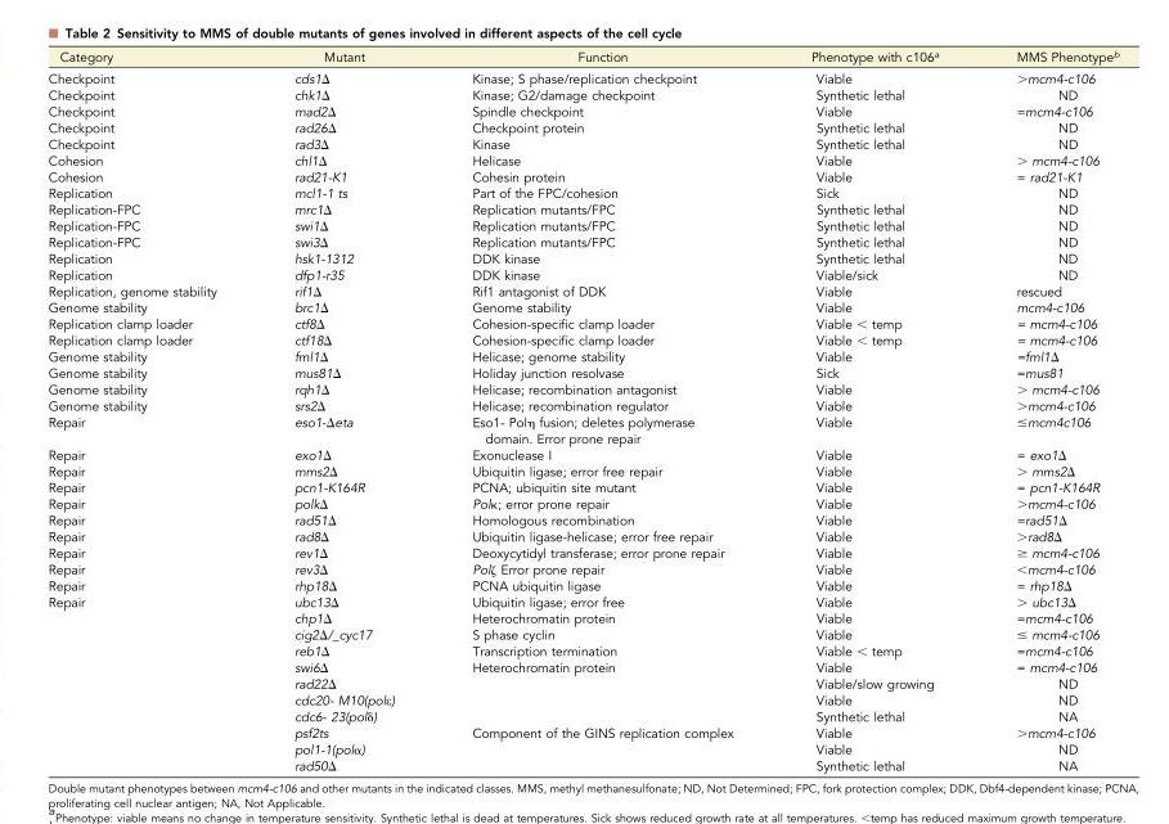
<table><thead><tr><td>Category</td><td>Mutant</td><td>Function</td><td>Phenotype with c106<sup>a</sup></td><td>MMS Phenotype<sup>b</sup></td></tr></thead><tbody><tr><td>Checkpoint</td><td>cds1Δ</td><td>Kinase; S phase/replication checkpoint</td><td>Viable</td><td>&gt;mcm4-c106</td></tr><tr><td>Checkpoint</td><td>chk1Δ</td><td>Kinase; G2/damage checkpoint</td><td>Synthetic lethal</td><td>ND</td></tr><tr><td>Checkpoint</td><td>mad2Δ</td><td>Spindle checkpoint</td><td>Viable</td><td>=mcm4-c106</td></tr><tr><td>Checkpoint</td><td>rad26Δ</td><td>Checkpoint protein</td><td>Synthetic lethal</td><td>ND</td></tr><tr><td>Checkpoint</td><td>rad3Δ</td><td>Kinase</td><td>Synthetic lethal</td><td>ND</td></tr><tr><td>Cohesion</td><td>chl1Δ</td><td>Helicase</td><td>Viable</td><td>&gt; mcm4-c106</td></tr><tr><td>Cohesion</td><td>rad21-K1</td><td>Cohesin protein</td><td>Viable</td><td>= rad21-K1</td></tr><tr><td>Replication</td><td>mcl1-1 ts</td><td>Part of the FPC/cohesion</td><td>Sick</td><td>ND</td></tr><tr><td>Replication-FPC</td><td>mrc1Δ</td><td>Replication mutants/FPC</td><td>Synthetic lethal</td><td>ND</td></tr><tr><td>Replication-FPC</td><td>swi1Δ</td><td>Replication mutants/FPC</td><td>Synthetic lethal</td><td>ND</td></tr><tr><td>Replication-FPC</td><td>swi3Δ</td><td>Replication mutants/FPC</td><td>Synthetic lethal</td><td>ND</td></tr><tr><td>Replication</td><td>hsk1-1312</td><td>DDK kinase</td><td>Synthetic lethal</td><td>ND</td></tr><tr><td>Replication</td><td>dfp1-r35</td><td>DDK kinase</td><td>Viable/sick</td><td>ND</td></tr><tr><td>Replication, genome stability</td><td>rif1Δ</td><td>Rif1 antagonist of DDK</td><td>Viable</td><td>rescued</td></tr><tr><td>Genome stability</td><td>brc1Δ</td><td>Genome stability</td><td>Viable</td><td>mcm4-c106</td></tr><tr><td>Replication clamp loader</td><td>ctf8Δ</td><td>Cohesion-specific clamp loader</td><td>Viable &lt; temp</td><td>= mcm4-c106</td></tr><tr><td>Replication clamp loader</td><td>ctf18Δ</td><td>Cohesion-specific clamp loader</td><td>Viable &lt; temp</td><td>= mcm4-c106</td></tr><tr><td>Genome stability</td><td>fml1Δ</td><td>Helicase; genome stability</td><td>Viable</td><td>=fml1Δ</td></tr><tr><td>Genome stability</td><td>mus81Δ</td><td>Holiday junction resolvase</td><td>Sick</td><td>=mus81</td></tr><tr><td>Genome stability</td><td>rqh1Δ</td><td>Helicase; recombination antagonist</td><td>Viable</td><td>&gt; mcm4-c106</td></tr><tr><td>Genome stability</td><td>srs2Δ</td><td>Helicase; recombination regulator</td><td>Viable</td><td>&gt;mcm4-c106</td></tr><tr><td>Repair</td><td>eso1-Δeta</td><td>Eso1- Polη fusion; deletes polymerase domain. Error prone repair</td><td>Viable</td><td>≤mcm4c106</td></tr><tr><td>Repair</td><td>exo1Δ</td><td>Exonuclease I</td><td>Viable</td><td>= exo1Δ</td></tr><tr><td>Repair</td><td>mms2Δ</td><td>Ubiquitin ligase; error free repair</td><td>Viable</td><td>&gt; mms2Δ</td></tr><tr><td>Repair</td><td>pcn1-K164R</td><td>PCNA; ubiquitin site mutant</td><td>Viable</td><td>= pcn1-K164R</td></tr><tr><td>Repair</td><td>polkΔ</td><td>Polκ; error prone repair</td><td>Viable</td><td>&gt;mcm4-c106</td></tr><tr><td>Repair</td><td>rad51Δ</td><td>Homologous recombination</td><td>Viable</td><td>=rad51Δ</td></tr><tr><td>Repair</td><td>rad8Δ</td><td>Ubiquitin ligase-helicase; error free repair</td><td>Viable</td><td>&gt;rad8Δ</td></tr><tr><td>Repair</td><td>rev1Δ</td><td>Deoxycytidyl transferase; error prone repair</td><td>Viable</td><td>≥ mcm4-c106</td></tr><tr><td>Repair</td><td>rev3Δ</td><td>Polζ Error prone repair</td><td>Viable</td><td>&lt;mcm4-c106</td></tr><tr><td>Repair</td><td>rhp18Δ</td><td>PCNA ubiquitin ligase</td><td>Viable</td><td>= rhp18Δ</td></tr><tr><td rowspan="11">Repair</td><td>ubc13Δ</td><td>Ubiquitin ligase; error free</td><td>Viable</td><td>&gt; ubc13Δ</td></tr><tr><td>chp1Δ</td><td>Heterochromatin protein</td><td>Viable</td><td>=mcm4-c106</td></tr><tr><td>cig2Δ/_cyc17</td><td>S phase cyclin</td><td>Viable</td><td>≤ mcm4-c106</td></tr><tr><td>reb1Δ</td><td>Transcription termination</td><td>Viable &lt; temp</td><td>=mcm4-c106</td></tr><tr><td>swi6Δ</td><td>Heterochromatin protein</td><td>Viable</td><td>= mcm4-c106</td></tr><tr><td>rad22Δ</td><td></td><td>Viable/slow growing</td><td>ND</td></tr><tr><td>cdc20- M10(polε)</td><td></td><td>Viable</td><td>ND</td></tr><tr><td>cdc6- 23(polδ)</td><td></td><td>Synthetic lethal</td><td>NA</td></tr><tr><td>psf2ts</td><td>Component of the GINS replication complex</td><td>Viable</td><td>&gt;mcm4-c106</td></tr><tr><td>pol1-1(polα)</td><td></td><td>Viable</td><td>ND</td></tr><tr><td>rad50Δ</td><td></td><td>Synthetic lethal</td><td>NA</td></tr></tbody></table>